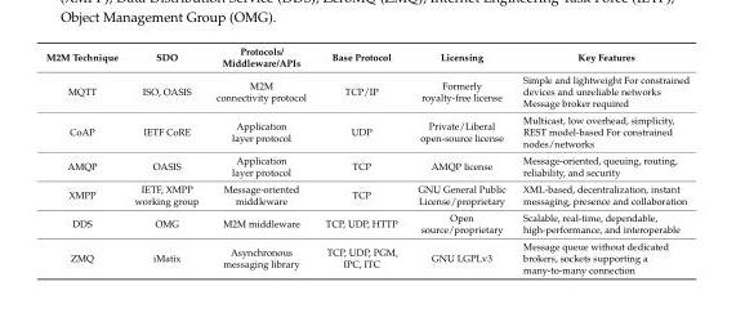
<table><thead><tr><td>M2M Technique</td><td>SDO</td><td>Protocols/ Middleware/APIs</td><td>Base Protocol</td><td>Licensing</td><td>Key Features</td></tr></thead><tbody><tr><td>MQTT</td><td>ISO, OASIS</td><td>M2M connectivity protocol</td><td>TCP/IP</td><td>Formerly royalty-free license</td><td>Simple and lightweight For constrained devices and unreliable networks Message broker required</td></tr><tr><td>CoAP</td><td>IETF CoRE</td><td>Application layer protocol</td><td>UDP</td><td>Private/Liberal open-source license</td><td>Multicast, low overhead, simplicity, REST model-based For constrained nodes/networks</td></tr><tr><td>AMQP</td><td>OASIS</td><td>Application layer protocol</td><td>TCP</td><td>AMQP license</td><td>Message-oriented, queuing, routing, reliability, and security</td></tr><tr><td>XMPP</td><td>IETF, XMPP working group</td><td>Message-oriented middleware</td><td>TCP</td><td>GNU General Public License/proprietary</td><td>XML-based, decentralization, instant messaging, presence and collaboration</td></tr><tr><td>DDS</td><td>OMG</td><td>M2M middleware</td><td>TCP, UDP, HTTP</td><td>Open source/proprietary</td><td>Scalable, real-time, dependable, high-performance, and interoperable</td></tr><tr><td>ZMQ</td><td>iMatix</td><td>Asynchronous messaging library</td><td>TCP, UDP, PGM, IPC, ITC</td><td>GNU LGPLv3</td><td>Message queue without dedicated brokers, sockets supporting a many-to-many connection</td></tr></tbody></table>